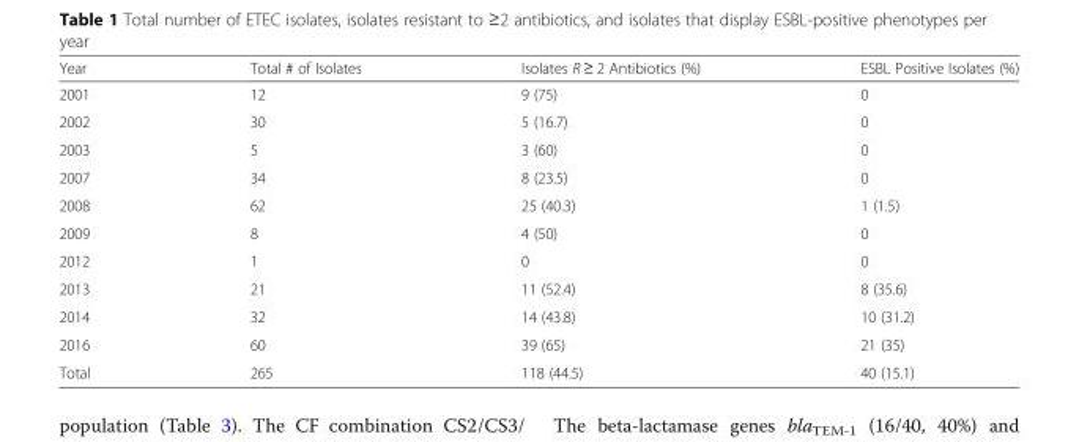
<table><thead><tr><td>Year</td><td>Total # of Isolates</td><td>Isolates R ≥ 2 Antibiotics (%)</td><td>ESBL Positive Isolates (%)</td></tr></thead><tbody><tr><td>2001</td><td>12</td><td>9 (75)</td><td>0</td></tr><tr><td>2002</td><td>30</td><td>5 (16.7)</td><td>0</td></tr><tr><td>2003</td><td>5</td><td>3 (60)</td><td>0</td></tr><tr><td>2007</td><td>34</td><td>8 (23.5)</td><td>0</td></tr><tr><td>2008</td><td>62</td><td>25 (40.3)</td><td>1 (1.5)</td></tr><tr><td>2009</td><td>8</td><td>4 (50)</td><td>0</td></tr><tr><td>2012</td><td>1</td><td>0</td><td>0</td></tr><tr><td>2013</td><td>21</td><td>11 (52.4)</td><td>8 (35.6)</td></tr><tr><td>2014</td><td>32</td><td>14 (43.8)</td><td>10 (31.2)</td></tr><tr><td>2016</td><td>60</td><td>39 (65)</td><td>21 (35)</td></tr><tr><td>Total</td><td>265</td><td>118 (44.5)</td><td>40 (15.1)</td></tr></tbody></table>